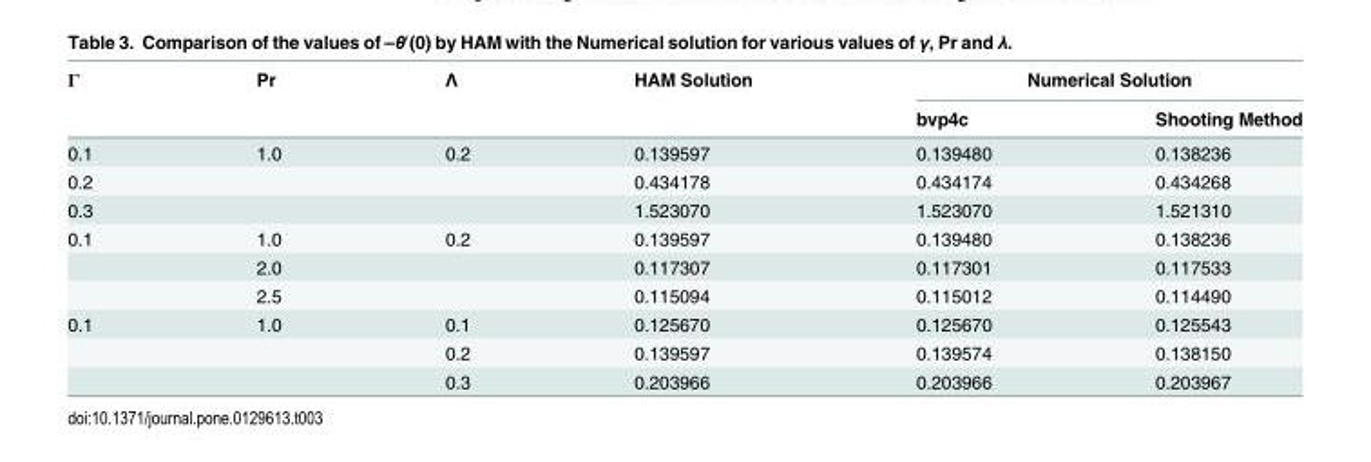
<table><thead><tr><td rowspan="2">Γ</td><td rowspan="2">Pr</td><td rowspan="2">Λ</td><td rowspan="2">HAM Solution</td><td colspan="2">Numerical Solution</td></tr><tr><td>bvp4c</td><td>Shooting Method</td></tr></thead><tbody><tr><td>0.1</td><td>1.0</td><td>0.2</td><td>0.139597</td><td>0.139480</td><td>0.138236</td></tr><tr><td>0.2</td><td></td><td></td><td>0.434178</td><td>0.434174</td><td>0.434268</td></tr><tr><td>0.3</td><td></td><td></td><td>1.523070</td><td>1.523070</td><td>1.521310</td></tr><tr><td rowspan="3">0.1</td><td>1.0</td><td>0.2</td><td>0.139597</td><td>0.139480</td><td>0.138236</td></tr><tr><td>2.0</td><td></td><td>0.117307</td><td>0.117301</td><td>0.117533</td></tr><tr><td>2.5</td><td></td><td>0.115094</td><td>0.115012</td><td>0.114490</td></tr><tr><td rowspan="3">0.1</td><td>1.0</td><td>0.1</td><td>0.125670</td><td>0.125670</td><td>0.125543</td></tr><tr><td></td><td>0.2</td><td>0.139597</td><td>0.139574</td><td>0.138150</td></tr><tr><td></td><td>0.3</td><td>0.203966</td><td>0.203966</td><td>0.203967</td></tr></tbody></table>